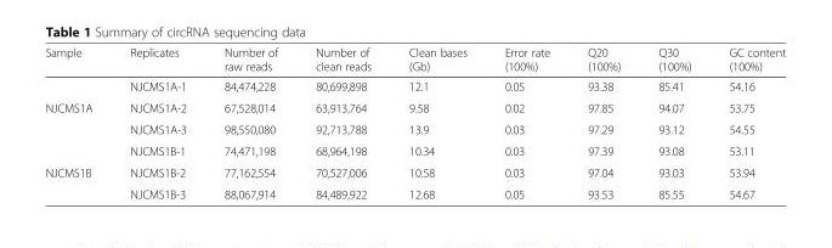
<table><thead><tr><td>Sample</td><td>Replicates</td><td>Number of raw reads</td><td>Number of clean reads</td><td>Clean bases (Gb)</td><td>Error rate (100%)</td><td>Q20 (100%)</td><td>Q30 (100%)</td><td>GC content (100%)</td></tr></thead><tbody><tr><td></td><td>NJCMS1A-1</td><td>84,474,228</td><td>80,699,898</td><td>12.1</td><td>0.05</td><td>93.38</td><td>85.41</td><td>54.16</td></tr><tr><td rowspan="3">NJCMS1A</td><td>NJCMS1A-2</td><td>67,528,014</td><td>63,913,764</td><td>9.58</td><td>0.02</td><td>97.85</td><td>94.07</td><td>53.75</td></tr><tr><td>NJCMS1A-3</td><td>98,550,080</td><td>92,713,788</td><td>13.9</td><td>0.03</td><td>97.29</td><td>93.12</td><td>54.55</td></tr><tr><td>NJCMS1B-1</td><td>74,471,198</td><td>68,964,198</td><td>10.34</td><td>0.03</td><td>97.39</td><td>93.08</td><td>53.11</td></tr><tr><td rowspan="2">NJCMS1B</td><td>NJCMS1B-2</td><td>77,162,554</td><td>70,527,006</td><td>10.58</td><td>0.03</td><td>97.04</td><td>93.03</td><td>53.94</td></tr><tr><td>NJCMS1B-3</td><td>88,067,914</td><td>84,489,922</td><td>12.68</td><td>0.05</td><td>93.53</td><td>85.55</td><td>54.67</td></tr></tbody></table>